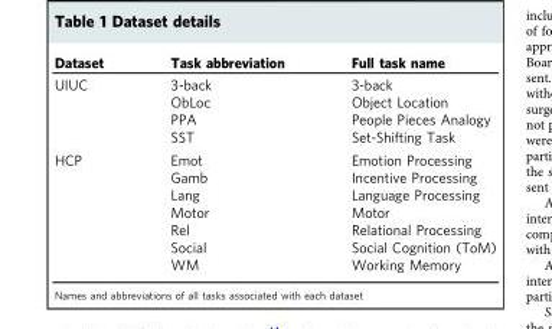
<table><thead><tr><td>Dataset</td><td>Task abbreviation</td><td>Full task name</td></tr></thead><tbody><tr><td rowspan="4">UIUC</td><td>3-back</td><td>3-back</td></tr><tr><td>ObLoc</td><td>Object Location</td></tr><tr><td>PPA</td><td>People Pieces Analogy</td></tr><tr><td>SST</td><td>Set-Shifting Task</td></tr><tr><td rowspan="7">HCP</td><td>Emot</td><td>Emotion Processing</td></tr><tr><td>Gamb</td><td>Incentive Processing</td></tr><tr><td>Lang</td><td>Language Processing</td></tr><tr><td>Motor</td><td>Motor</td></tr><tr><td>Rel</td><td>Relational Processing</td></tr><tr><td>Social</td><td>Social Cognition (ToM)</td></tr><tr><td>WM</td><td>Working Memory</td></tr></tbody></table>